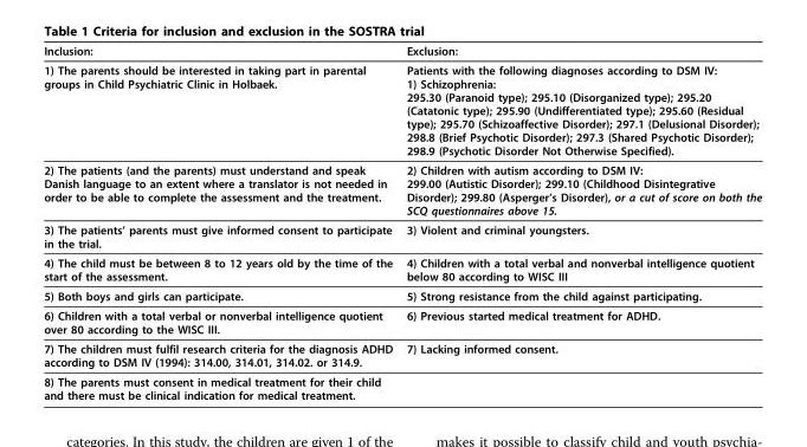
<table><thead><tr><td>Inclusion:</td><td>Exclusion:</td></tr></thead><tbody><tr><td>1) The parents should be interested in taking part in parental groups in Child Psychiatric Clinic in Holbaek.</td><td>Patients with the following diagnoses according to DSM IV: 1) Schizophrenia: 295.30 (Paranoid type); 295.10 (Disorganized type); 295.20 (Catatonic type); 295.90 (Undifferentiated type); 295.60 (Residual type); 295.70 (Schizoaffective Disorder); 297.1 (Delusional Disorder); 298.8 (Brief Psychotic Disorder); 297.3 (Shared Psychotic Disorder); 298.9 (Psychotic Disorder Not Otherwise Specified).</td></tr><tr><td>2) The patients (and the parents) must understand and speak Danish language to an extent where a translator is not needed in order to be able to complete the assessment and the treatment.</td><td>2) Children with autism according to DSM IV: 299.00 (Autistic Disorder); 299.10 (Childhood Disintegrative Disorder); 299.80 (Asperger’s Disorder), or a cut of score on both the SCQ questionnaires above 15.</td></tr><tr><td>3) The patients’ parents must give informed consent to participate in the trial.</td><td>3) Violent and criminal youngsters.</td></tr><tr><td>4) The child must be between 8 to 12 years old by the time of the start of the assessment.</td><td>4) Children with a total verbal and nonverbal intelligence quotient below 80 according to WISC III</td></tr><tr><td>5) Both boys and girls can participate.</td><td>5) Strong resistance from the child against participating.</td></tr><tr><td>6) Children with a total verbal or nonverbal intelligence quotient over 80 according to the WISC III.</td><td>6) Previous started medical treatment for ADHD.</td></tr><tr><td>7) The children must fulfil research criteria for the diagnosis ADHD according to DSM IV (1994): 314.00, 314.01, 314.02. or 314.9.</td><td>7) Lacking informed consent.</td></tr><tr><td>8) The parents must consent in medical treatment for their child and there must be clinical indication for medical treatment.</td><td></td></tr></tbody></table>